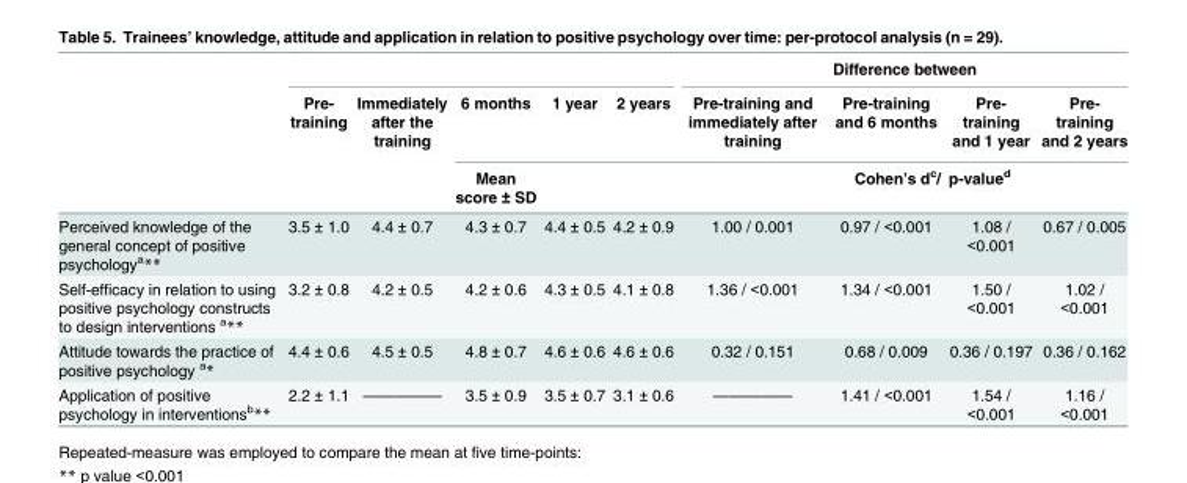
<table><thead><tr><td rowspan="3"></td><td rowspan="3">Pre- training</td><td rowspan="3">Immediately after the training</td><td rowspan="3">6 months Mean score ± SD</td><td rowspan="3">1 year</td><td rowspan="3">2 years</td><td colspan="4">Difference between</td></tr><tr><td rowspan="2">Pre-training and immediately after training</td><td rowspan="2">Pre-training and 6 months Cohen’s d<sup>c</sup>/</td><td rowspan="2">Pre- training and 1 year p-value<sup>d</sup></td><td rowspan="2">Pre- training and 2 years</td></tr><tr></tr></thead><tbody><tr><td>Perceived knowledge of the general concept of positive psychology<sup>a</sup>**</td><td>3.5 ± 1.0</td><td>4.4 ± 0.7</td><td>4.3 ± 0.7</td><td>4.4 ± 0.5</td><td>4.2 ± 0.9</td><td>1.00 / 0.001</td><td>0.97 / &lt;0.001</td><td>1.08 / &lt;0.001</td><td>0.67 / 0.005</td></tr><tr><td>Self-efficacy in relation to using positive psychology constructs to design interventions <sup>a</sup>**</td><td>3.2 ± 0.8</td><td>4.2 ± 0.5</td><td>4.2 ± 0.6</td><td>4.3 ± 0.5</td><td>4.1 ± 0.8</td><td>1.36 / &lt;0.001</td><td>1.34 / &lt;0.001</td><td>1.50 / &lt;0.001</td><td>1.02 / &lt;0.001</td></tr><tr><td>Attitude towards the practice of positive psychology <sup>a</sup>*</td><td>4.4 ± 0.6</td><td>4.5 ± 0.5</td><td>4.8 ± 0.7</td><td>4.6 ± 0.6</td><td>4.6 ± 0.6</td><td>0.32 / 0.151</td><td>0.68 / 0.009</td><td>0.36 / 0.197</td><td>0.36 / 0.162</td></tr><tr><td>Application of positive psychology in interventions<sup>b</sup>**</td><td>2.2 ± 1.1</td><td>—————</td><td>3.5 ± 0.9</td><td>3.5 ± 0.7</td><td>3.1 ± 0.6</td><td>—————</td><td>1.41 / &lt;0.001</td><td>1.54 / &lt;0.001</td><td>1.16 / &lt;0.001</td></tr></tbody></table>